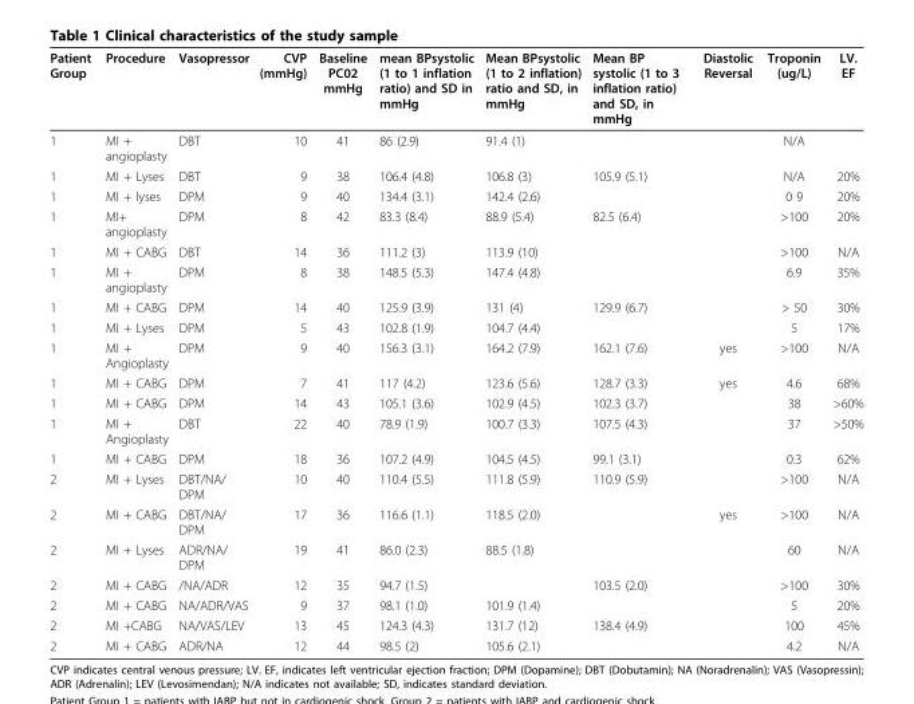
<table><thead><tr><td>Patient Group</td><td>Procedure</td><td>Vasopressor</td><td>CVP (mmHg)</td><td>Baseline PC02 mmHg</td><td>mean BPsystolic (1 to 1 inflation ratio) and SD in mmHg</td><td>Mean BPsystolic (1 to 2 inflation) ratio and SD, in mmHg</td><td>Mean BP systolic (1 to 3 inflation ratio) and SD, in mmHg</td><td>Diastolic Reversal</td><td>Troponin (ug/L)</td><td>LV. EF</td></tr></thead><tbody><tr><td>1</td><td>MI + angioplasty</td><td>DBT</td><td>10</td><td>41</td><td>86 (2.9)</td><td>91.4 (1)</td><td></td><td></td><td>N/A</td><td></td></tr><tr><td>1</td><td>MI + Lyses</td><td>DBT</td><td>9</td><td>38</td><td>106.4 (4.8)</td><td>106.8 (3)</td><td>105.9 (5.1)</td><td></td><td>N/A</td><td>20%</td></tr><tr><td>1</td><td>MI + lyses</td><td>DPM</td><td>9</td><td>40</td><td>134.4 (3.1)</td><td>142.4 (2.6)</td><td></td><td></td><td>0 9</td><td>20%</td></tr><tr><td>1</td><td>MI+ angioplasty</td><td>DPM</td><td>8</td><td>42</td><td>83.3 (8.4)</td><td>88.9 (5.4)</td><td>82.5 (6.4)</td><td></td><td>&gt;100</td><td>20%</td></tr><tr><td>1</td><td>MI + CABG</td><td>DBT</td><td>14</td><td>36</td><td>111.2 (3)</td><td>113.9 (10)</td><td></td><td></td><td>&gt;100</td><td>N/A</td></tr><tr><td>1</td><td>MI + angioplasty</td><td>DPM</td><td>8</td><td>38</td><td>148.5 (5.3)</td><td>147.4 (4.8)</td><td></td><td></td><td>6.9</td><td>35%</td></tr><tr><td>1</td><td>MI + CABG</td><td>DPM</td><td>14</td><td>40</td><td>125.9 (3.9)</td><td>131 (4)</td><td>129.9 (6.7)</td><td></td><td>&gt; 50</td><td>30%</td></tr><tr><td>1</td><td>MI + Lyses</td><td>DPM</td><td>5</td><td>43</td><td>102.8 (1.9)</td><td>104.7 (4.4)</td><td></td><td></td><td>5</td><td>17%</td></tr><tr><td>1</td><td>MI + Angioplasty</td><td>DPM</td><td>9</td><td>40</td><td>156.3 (3.1)</td><td>164.2 (7.9)</td><td>162.1 (7.6)</td><td>yes</td><td>&gt;100</td><td>N/A</td></tr><tr><td>1</td><td>MI + CABG</td><td>DPM</td><td>7</td><td>41</td><td>117 (4.2)</td><td>123.6 (5.6)</td><td>128.7 (3.3)</td><td>yes</td><td>4.6</td><td>68%</td></tr><tr><td>1</td><td>MI + CABG</td><td>DPM</td><td>14</td><td>43</td><td>105.1 (3.6)</td><td>102.9 (4.5)</td><td>102.3 (3.7)</td><td></td><td>38</td><td>&gt;60%</td></tr><tr><td>1</td><td>MI + Angioplasty</td><td>DBT</td><td>22</td><td>40</td><td>78.9 (1.9)</td><td>100.7 (3.3)</td><td>107.5 (4.3)</td><td></td><td>37</td><td>&gt;50%</td></tr><tr><td>1</td><td>MI + CABG</td><td>DPM</td><td>18</td><td>36</td><td>107.2 (4.9)</td><td>104.5 (4.5)</td><td>99.1 (3.1)</td><td></td><td>0.3</td><td>62%</td></tr><tr><td>2</td><td>MI + Lyses</td><td>DBT/NA/ DPM</td><td>10</td><td>40</td><td>110.4 (5.5)</td><td>111.8 (5.9)</td><td>110.9 (5.9)</td><td></td><td>&gt;100</td><td>N/A</td></tr><tr><td>2</td><td>MI + CABG</td><td>DBT/NA/ DPM</td><td>17</td><td>36</td><td>116.6 (1.1)</td><td>118.5 (2.0)</td><td></td><td>yes</td><td>&gt;100</td><td>N/A</td></tr><tr><td>2</td><td>MI + Lyses</td><td>ADR/NA/ DPM</td><td>19</td><td>41</td><td>86.0 (2.3)</td><td>88.5 (1.8)</td><td></td><td></td><td>60</td><td>N/A</td></tr><tr><td>2</td><td>MI + CABG</td><td>/NA/ADR</td><td>12</td><td>35</td><td>94.7 (1.5)</td><td></td><td>103.5 (2.0)</td><td></td><td>&gt;100</td><td>30%</td></tr><tr><td>2</td><td>MI + CABG</td><td>NA/ADR/VAS</td><td>9</td><td>37</td><td>98.1 (1.0)</td><td>101.9 (1.4)</td><td></td><td></td><td>5</td><td>20%</td></tr><tr><td>2</td><td>MI +CABG</td><td>NA/VAS/LEV</td><td>13</td><td>45</td><td>124.3 (4.3)</td><td>131.7 (12)</td><td>138.4 (4.9)</td><td></td><td>100</td><td>45%</td></tr><tr><td>2</td><td>MI + CABG</td><td>ADR/NA</td><td>12</td><td>44</td><td>98.5 (2)</td><td>105.6 (2.1)</td><td></td><td></td><td>4.2</td><td>N/A</td></tr></tbody></table>